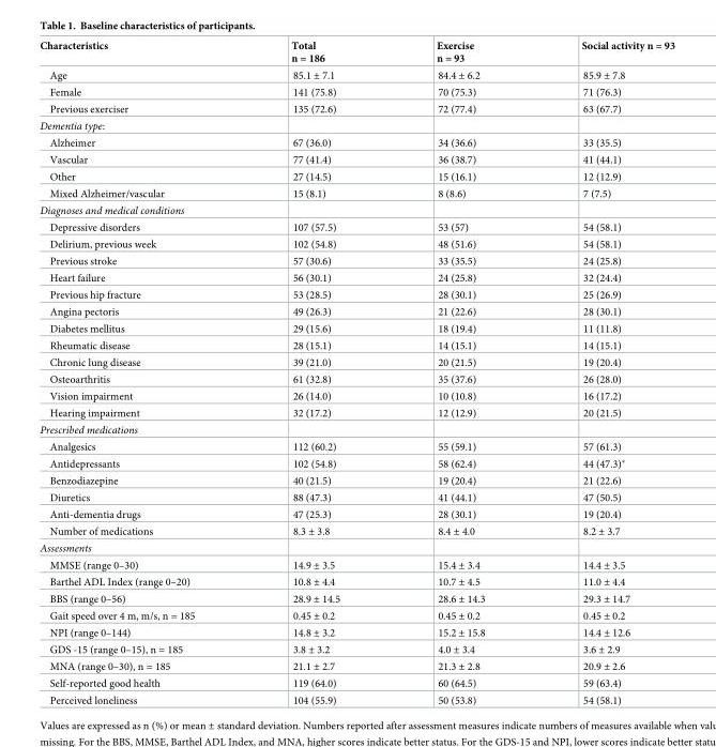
<table><thead><tr><td>Characteristics</td><td>Total n = 186</td><td>Exercise n = 93</td><td>Social activity n = 93</td></tr></thead><tbody><tr><td>Age</td><td>85.1 ± 7.1</td><td>84.4 ± 6.2</td><td>85.9 ± 7.8</td></tr><tr><td>Female</td><td>141 (75.8)</td><td>70 (75.3)</td><td>71 (76.3)</td></tr><tr><td>Previous exerciser</td><td>135 (72.6)</td><td>72 (77.4)</td><td>63 (67.7)</td></tr><tr><td colspan="4">Dementia type:</td></tr><tr><td>Alzheimer</td><td>67 (36.0)</td><td>34 (36.6)</td><td>33 (35.5)</td></tr><tr><td>Vascular</td><td>77 (41.4)</td><td>36 (38.7)</td><td>41 (44.1)</td></tr><tr><td>Other</td><td>27 (14.5)</td><td>15 (16.1)</td><td>12 (12.9)</td></tr><tr><td>Mixed Alzheimer/vascular</td><td>15 (8.1)</td><td>8 (8.6)</td><td>7 (7.5)</td></tr><tr><td colspan="4">Diagnoses and medical conditions</td></tr><tr><td>Depressive disorders</td><td>107 (57.5)</td><td>53 (57)</td><td>54 (58.1)</td></tr><tr><td>Delirium, previous week</td><td>102 (54.8)</td><td>48 (51.6)</td><td>54 (58.1)</td></tr><tr><td>Previous stroke</td><td>57 (30.6)</td><td>33 (35.5)</td><td>24 (25.8)</td></tr><tr><td>Heart failure</td><td>56 (30.1)</td><td>24 (25.8)</td><td>32 (24.4)</td></tr><tr><td>Previous hip fracture</td><td>53 (28.5)</td><td>28 (30.1)</td><td>25 (26.9)</td></tr><tr><td>Angina pectoris</td><td>49 (26.3)</td><td>21 (22.6)</td><td>28 (30.1)</td></tr><tr><td>Diabetes mellitus</td><td>29 (15.6)</td><td>18 (19.4)</td><td>11 (11.8)</td></tr><tr><td>Rheumatic disease</td><td>28 (15.1)</td><td>14 (15.1)</td><td>14 (15.1)</td></tr><tr><td>Chronic lung disease</td><td>39 (21.0)</td><td>20 (21.5)</td><td>19 (20.4)</td></tr><tr><td>Osteoarthritis</td><td>61 (32.8)</td><td>35 (37.6)</td><td>26 (28.0)</td></tr><tr><td>Vision impairment</td><td>26 (14.0)</td><td>10 (10.8)</td><td>16 (17.2)</td></tr><tr><td>Hearing impairment</td><td>32 (17.2)</td><td>12 (12.9)</td><td>20 (21.5)</td></tr><tr><td colspan="4">Prescribed medications</td></tr><tr><td>Analgesics</td><td>112 (60.2)</td><td>55 (59.1)</td><td>57 (61.3)</td></tr><tr><td>Antidepressants</td><td>102 (54.8)</td><td>58 (62.4)</td><td>44 (47.3)*</td></tr><tr><td>Benzodiazepine</td><td>40 (21.5)</td><td>19 (20.4)</td><td>21 (22.6)</td></tr><tr><td>Diuretics</td><td>88 (47.3)</td><td>41 (44.1)</td><td>47 (50.5)</td></tr><tr><td>Anti-dementia drugs</td><td>47 (25.3)</td><td>28 (30.1)</td><td>19 (20.4)</td></tr><tr><td>Number of medications</td><td>8.3 ± 3.8</td><td>8.4 ± 4.0</td><td>8.2 ± 3.7</td></tr><tr><td colspan="4">Assessments</td></tr><tr><td>MMSE (range 0–30)</td><td>14.9 ± 3.5</td><td>15.4 ± 3.4</td><td>14.4 ± 3.5</td></tr><tr><td>Barthel ADL Index (range 0–20)</td><td>10.8 ± 4.4</td><td>10.7 ± 4.5</td><td>11.0 ± 4.4</td></tr><tr><td>BBS (range 0–56)</td><td>28.9 ± 14.5</td><td>28.6 ± 14.3</td><td>29.3 ± 14.7</td></tr><tr><td>Gait speed over 4 m, m/s, n = 185</td><td>0.45 ± 0.2</td><td>0.45 ± 0.2</td><td>0.45 ± 0.2</td></tr><tr><td>NPI (range 0–144)</td><td>14.8 ± 3.2</td><td>15.2 ± 15.8</td><td>14.4 ± 12.6</td></tr><tr><td>GDS -15 (range 0–15), n = 185</td><td>3.8 ± 3.2</td><td>4.0 ± 3.4</td><td>3.6 ± 2.9</td></tr><tr><td>MNA (range 0–30), n = 185</td><td>21.1 ± 2.7</td><td>21.3 ± 2.8</td><td>20.9 ± 2.6</td></tr><tr><td>Self-reported good health</td><td>119 (64.0)</td><td>60 (64.5)</td><td>59 (63.4)</td></tr><tr><td>Perceived loneliness</td><td>104 (55.9)</td><td>50 (53.8)</td><td>54 (58.1)</td></tr></tbody></table>